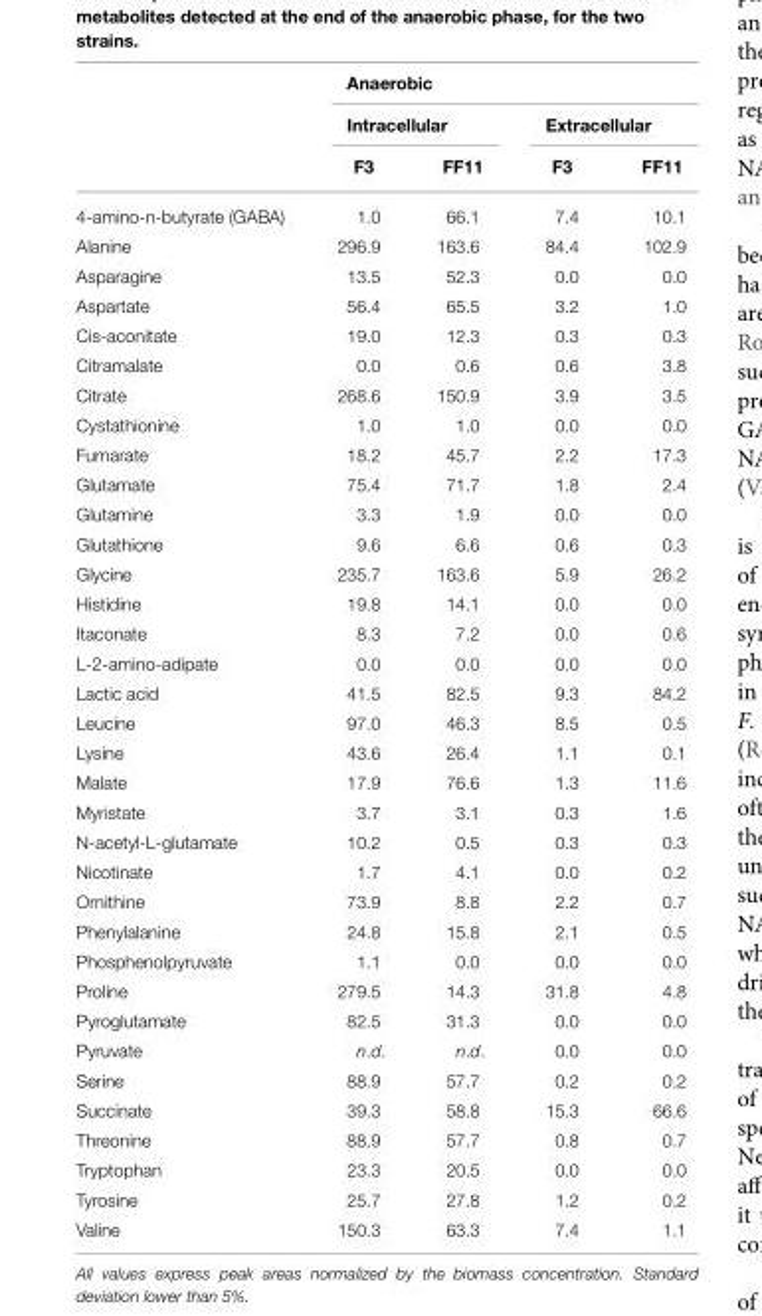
<table><thead><tr><td rowspan="3"></td><td colspan="4">Anaerobic</td></tr><tr><td colspan="2">Intracellular</td><td colspan="2">Extracellular</td></tr><tr><td>F3</td><td>FF11</td><td>F3</td><td>FF11</td></tr></thead><tbody><tr><td>4-amino-n-butyrate (GABA)</td><td>1.0</td><td>66.1</td><td>7.4</td><td>10.1</td></tr><tr><td>Alanine</td><td>296.9</td><td>163.6</td><td>84.4</td><td>102.9</td></tr><tr><td>Asparagine</td><td>13.5</td><td>52.3</td><td>0.0</td><td>0.0</td></tr><tr><td>Aspartate</td><td>56.4</td><td>65.5</td><td>3.2</td><td>1.0</td></tr><tr><td>Cis-aconitate</td><td>19.0</td><td>12.3</td><td>0.3</td><td>0.3</td></tr><tr><td>Citramalate</td><td>0.0</td><td>0.6</td><td>0.6</td><td>3.8</td></tr><tr><td>Citrate</td><td>268.6</td><td>150.9</td><td>3.9</td><td>3.5</td></tr><tr><td>Cystathionine</td><td>1.0</td><td>1.0</td><td>0.0</td><td>0.0</td></tr><tr><td>Fumarate</td><td>18.2</td><td>45.7</td><td>2.2</td><td>17.3</td></tr><tr><td>Glutamate</td><td>75.4</td><td>71.7</td><td>1.8</td><td>2.4</td></tr><tr><td>Glutamine</td><td>3.3</td><td>1.9</td><td>0.0</td><td>0.0</td></tr><tr><td>Glutathione</td><td>9.6</td><td>6.6</td><td>0.6</td><td>0.3</td></tr><tr><td>Glycine</td><td>235.7</td><td>163.6</td><td>5.9</td><td>26.2</td></tr><tr><td>Histidine</td><td>19.8</td><td>14.1</td><td>0.0</td><td>0.0</td></tr><tr><td>Itaconate</td><td>8.3</td><td>7.2</td><td>0.0</td><td>0.6</td></tr><tr><td>L-2-amino-adipate</td><td>0.0</td><td>0.0</td><td>0.0</td><td>0.0</td></tr><tr><td>Lactic acid</td><td>41.5</td><td>82.5</td><td>9.3</td><td>84.2</td></tr><tr><td>Leucine</td><td>97.0</td><td>46.3</td><td>8.5</td><td>0.5</td></tr><tr><td>Lysine</td><td>43.6</td><td>26.4</td><td>1.1</td><td>0.1</td></tr><tr><td>Malate</td><td>17.9</td><td>76.6</td><td>1.3</td><td>11.6</td></tr><tr><td>Myristate</td><td>3.7</td><td>3.1</td><td>0.3</td><td>1.6</td></tr><tr><td>N-acetyl-L-glutamate</td><td>10.2</td><td>0.5</td><td>0.3</td><td>0.3</td></tr><tr><td>Nicotinate</td><td>1.7</td><td>4.1</td><td>0.0</td><td>0.2</td></tr><tr><td>Ornithine</td><td>73.9</td><td>8.8</td><td>2.2</td><td>0.7</td></tr><tr><td>Phenylalanine</td><td>24.8</td><td>15.8</td><td>2.1</td><td>0.5</td></tr><tr><td>Phosphenolpyruvate</td><td>1.1</td><td>0.0</td><td>0.0</td><td>0.0</td></tr><tr><td>Proline</td><td>279.5</td><td>14.3</td><td>31.8</td><td>4.8</td></tr><tr><td>Pyroglutamate</td><td>82.5</td><td>31.3</td><td>0.0</td><td>0.0</td></tr><tr><td>Pyruvate</td><td>n.d.</td><td>n.d.</td><td>0.0</td><td>0.0</td></tr><tr><td>Serine</td><td>88.9</td><td>57.7</td><td>0.2</td><td>0.2</td></tr><tr><td>Succinate</td><td>39.3</td><td>58.8</td><td>15.3</td><td>66.6</td></tr><tr><td>Threonine</td><td>88.9</td><td>57.7</td><td>0.8</td><td>0.7</td></tr><tr><td>Tryptophan</td><td>23.3</td><td>20.5</td><td>0.0</td><td>0.0</td></tr><tr><td>Tyrosine</td><td>25.7</td><td>27.8</td><td>1.2</td><td>0.2</td></tr><tr><td>Valine</td><td>150.3</td><td>63.3</td><td>7.4</td><td>1.1</td></tr></tbody></table>